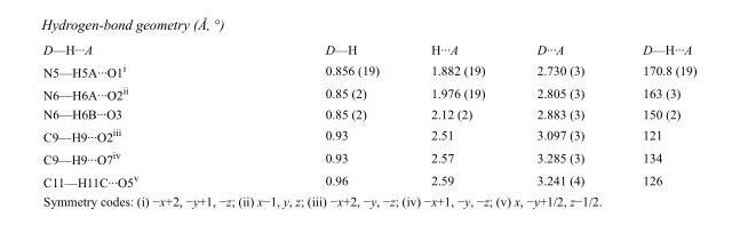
<table><tbody><tr><td>D—H···A</td><td>D—H</td><td>H···A</td><td>D···A</td><td>D—H···A</td></tr><tr><td>N5—H5A···O1<sup>i</sup></td><td>0.856 (19)</td><td>1.882 (19)</td><td>2.730 (3)</td><td>170.8 (19)</td></tr><tr><td>N6—H6A···O2<sup>ii</sup></td><td>0.85 (2)</td><td>1.976 (19)</td><td>2.805 (3)</td><td>163 (3)</td></tr><tr><td>N6—H6B···O3</td><td>0.85 (2)</td><td>2.12 (2)</td><td>2.883 (3)</td><td>150 (2)</td></tr><tr><td>C9—H9···O2<sup>iii</sup></td><td>0.93</td><td>2.51</td><td>3.097 (3)</td><td>121</td></tr><tr><td>C9—H9···O7<sup>iv</sup></td><td>0.93</td><td>2.57</td><td>3.285 (3)</td><td>134</td></tr><tr><td>C11—H11C···O5<sup>v</sup></td><td>0.96</td><td>2.59</td><td>3.241 (4)</td><td>126</td></tr></tbody></table>